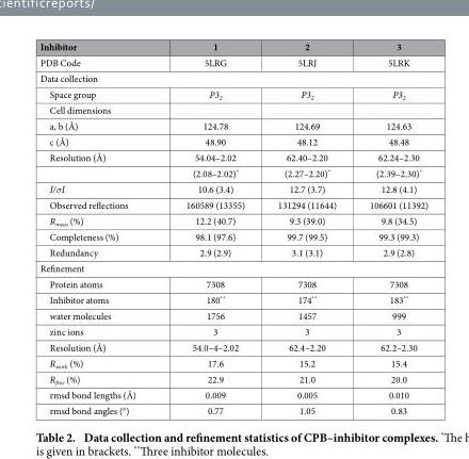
<table><thead><tr><td>Inhibitor</td><td>1</td><td>2</td><td>3</td></tr></thead><tbody><tr><td>PDB Code</td><td>5LRG</td><td>5LRJ</td><td>5LRK</td></tr><tr><td colspan="4">Data collection</td></tr><tr><td>Space group</td><td>P3<sub>2</sub></td><td>P3<sub>2</sub></td><td>P3<sub>2</sub></td></tr><tr><td colspan="4">Cell dimensions</td></tr><tr><td>a, b (Å)</td><td>124.78</td><td>124.69</td><td>124.63</td></tr><tr><td>c (Å)</td><td>48.90</td><td>48.12</td><td>48.48</td></tr><tr><td rowspan="2">Resolution (Å)</td><td>54.04–2.02</td><td>62.40–2.20</td><td>62.24–2.30</td></tr><tr><td>(2.08–2.02)*</td><td>(2.27–2.20)*</td><td>(2.39–2.30)*</td></tr><tr><td>I/σI</td><td>10.6 (3.4)</td><td>12.7 (3.7)</td><td>12.8 (4.1)</td></tr><tr><td>Observed reflections</td><td>160589 (13355)</td><td>131294 (11644)</td><td>106601 (11392)</td></tr><tr><td>R<sub>meas</sub> (%)</td><td>12.2 (40.7)</td><td>9.3 (39.0)</td><td>9.8 (34.5)</td></tr><tr><td>Completeness (%)</td><td>98.1 (97.6)</td><td>99.7 (99.5)</td><td>99.3 (99.3)</td></tr><tr><td>Redundancy</td><td>2.9 (2.9)</td><td>3.1 (3.1)</td><td>2.9 (2.8)</td></tr><tr><td colspan="4">Refinement</td></tr><tr><td>Protein atoms</td><td>7308</td><td>7308</td><td>7308</td></tr><tr><td>Inhibitor atoms</td><td>180**</td><td>174**</td><td>183**</td></tr><tr><td>water molecules</td><td>1756</td><td>1457</td><td>999</td></tr><tr><td>zinc ions</td><td>3</td><td>3</td><td>3</td></tr><tr><td>Resolution (Å)</td><td>54.0–4–2.02</td><td>62.4–2.20</td><td>62.2–2.30</td></tr><tr><td>R<sub>work</sub> (%)</td><td>17.6</td><td>15.2</td><td>15.4</td></tr><tr><td>R<sub>free</sub> (%)</td><td>22.9</td><td>21.0</td><td>20.0</td></tr><tr><td>rmsd bond lengths (Å)</td><td>0.009</td><td>0.005</td><td>0.010</td></tr><tr><td>rmsd bond angles (°)</td><td>0.77</td><td>1.05</td><td>0.83</td></tr></tbody></table>